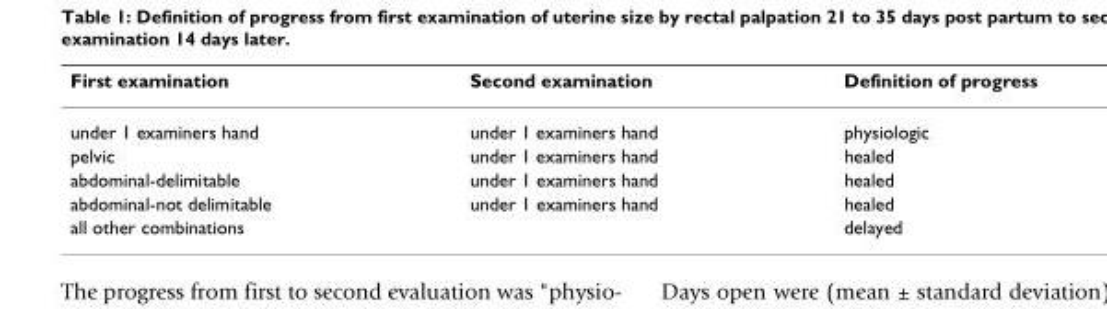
<table><thead><tr><td>First examination</td><td>Second examination</td><td>Definition of progress</td></tr></thead><tbody><tr><td>under 1 examiners hand</td><td>under 1 examiners hand</td><td>physiologic</td></tr><tr><td>pelvic</td><td>under 1 examiners hand</td><td>healed</td></tr><tr><td>abdominal-delimitable</td><td>under 1 examiners hand</td><td>healed</td></tr><tr><td>abdominal-not delimitable</td><td>under 1 examiners hand</td><td>healed</td></tr><tr><td>all other combinations</td><td></td><td>delayed</td></tr></tbody></table>